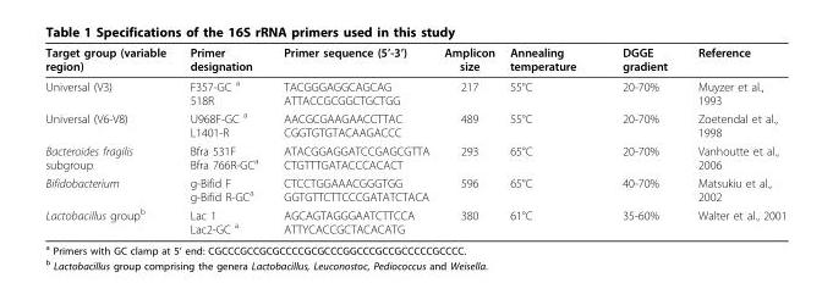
<table><thead><tr><td>Target group (variable region)</td><td>Primer designation</td><td>Primer sequence (5’-3’)</td><td>Amplicon size</td><td>Annealing temperature</td><td>DGGE gradient</td><td>Reference</td></tr></thead><tbody><tr><td>Universal (V3)</td><td>F357-GC <sup>a</sup> 518R</td><td>TACGGGAGGCAGCAG ATTACCGCGGCTGCTGG</td><td>217</td><td>55°C</td><td>20-70%</td><td>Muyzer et al., 1993</td></tr><tr><td>Universal (V6-V8)</td><td>U968F-GC <sup>a</sup> L1401-R</td><td>AACGCGAAGAACCTTAC CGGTGTGTACAAGACCC</td><td>489</td><td>55°C</td><td>20-70%</td><td>Zoetendal et al., 1998</td></tr><tr><td>Bacteroides fragilis subgroup</td><td>Bfra 531F Bfra 766R-GC<sup>a</sup></td><td>ATACGGAGGATCCGAGCGTTA CTGTTTGATACCCACACT</td><td>293</td><td>65°C</td><td>20-70%</td><td>Vanhoutte et al., 2006</td></tr><tr><td>Bifidobacterium</td><td>g-Bifid F g-Bifid R-GC<sup>a</sup></td><td>CTCCTGGAAACGGGTGG GGTGTTCTTCCCGATATCTACA</td><td>596</td><td>65°C</td><td>40-70%</td><td>Matsukiu et al., 2002</td></tr><tr><td>Lactobacillus group<sup>b</sup></td><td>Lac 1 Lac2-GC <sup>a</sup></td><td>AGCAGTAGGGAATCTTCCA ATTYCACCGCTACACATG</td><td>380</td><td>61°C</td><td>35-60%</td><td>Walter et al., 2001</td></tr></tbody></table>